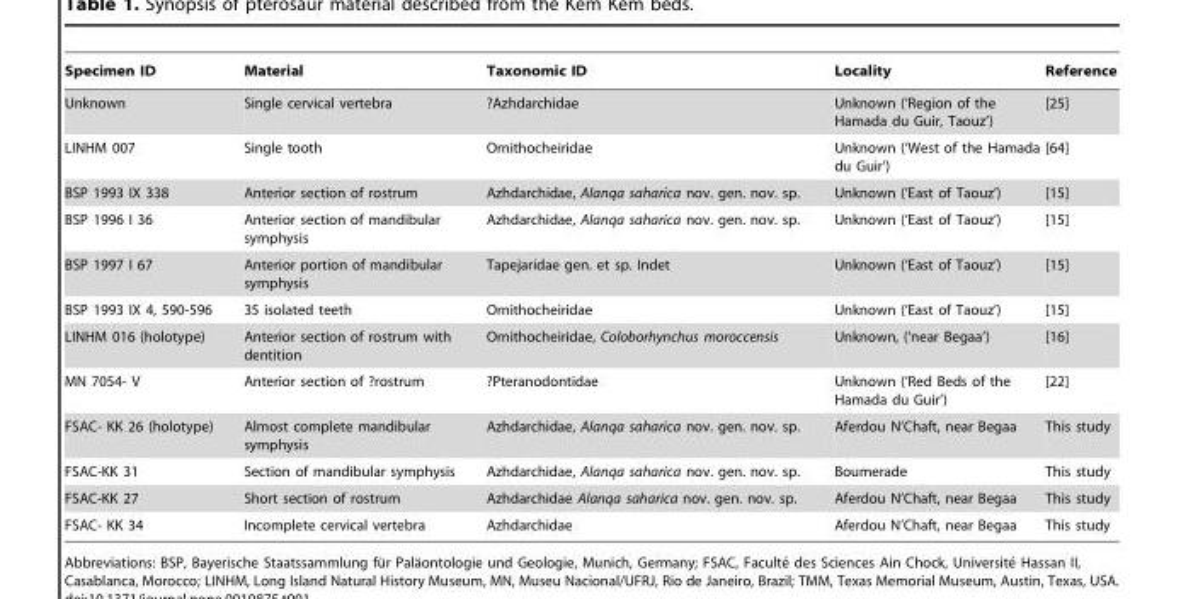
<table><thead><tr><td>Specimen ID</td><td>Material</td><td>Taxonomic ID</td><td>Locality</td><td>Reference</td></tr></thead><tbody><tr><td>Unknown</td><td>Single cervical vertebra</td><td>?Azhdarchidae</td><td>Unknown (‘Region of the Hamada du Guir, Taouz’)</td><td>[25]</td></tr><tr><td>LINHM 007</td><td>Single tooth</td><td>Ornithocheiridae</td><td>Unknown (‘West of the Hamada du Guir’)</td><td>[64]</td></tr><tr><td>BSP 1993 IX 338</td><td>Anterior section of rostrum</td><td>Azhdarchidae, Alanqa saharica nov. gen. nov. sp.</td><td>Unknown (‘East of Taouz’)</td><td>[15]</td></tr><tr><td>BSP 1996 I 36</td><td>Anterior section of mandibular symphysis</td><td>Azhdarchidae, Alanqa saharica nov. gen. nov. sp.</td><td>Unknown (‘East of Taouz’)</td><td>[15]</td></tr><tr><td>BSP 1997 I 67</td><td>Anterior portion of mandibular symphysis</td><td>Tapejaridae gen. et sp. Indet</td><td>Unknown (‘East of Taouz’)</td><td>[15]</td></tr><tr><td>BSP 1993 IX 4, 590-596</td><td>35 isolated teeth</td><td>Ornithocheiridae</td><td>Unknown (‘East of Taouz’)</td><td>[15]</td></tr><tr><td>LINHM 016 (holotype)</td><td>Anterior section of rostrum with dentition</td><td>Ornithocheiridae, Coloborhynchus moroccensis</td><td>Unknown, (‘near Begaa’)</td><td>[16]</td></tr><tr><td>MN 7054- V</td><td>Anterior section of ?rostrum</td><td>?Pteranodontidae</td><td>Unknown (‘Red Beds of the Hamada du Guir’)</td><td>[22]</td></tr><tr><td>FSAC- KK 26 (holotype)</td><td>Almost complete mandibular symphysis</td><td>Azhdarchidae, Alanqa saharica nov. gen. nov. sp.</td><td>Aferdou N’Chaft, near Begaa</td><td>This study</td></tr><tr><td>FSAC-KK 31</td><td>Section of mandibular symphysis</td><td>Azhdarchidae, Alanqa saharica nov. gen. nov. sp.</td><td>Boumerade</td><td>This study</td></tr><tr><td>FSAC-KK 27</td><td>Short section of rostrum</td><td>Azhdarchidae Alanqa saharica nov. gen. nov. sp.</td><td>Aferdou N’Chaft, near Begaa</td><td>This study</td></tr><tr><td>FSAC- KK 34</td><td>Incomplete cervical vertebra</td><td>Azhdarchidae</td><td>Aferdou N’Chaft, near Begaa</td><td>This study</td></tr></tbody></table>